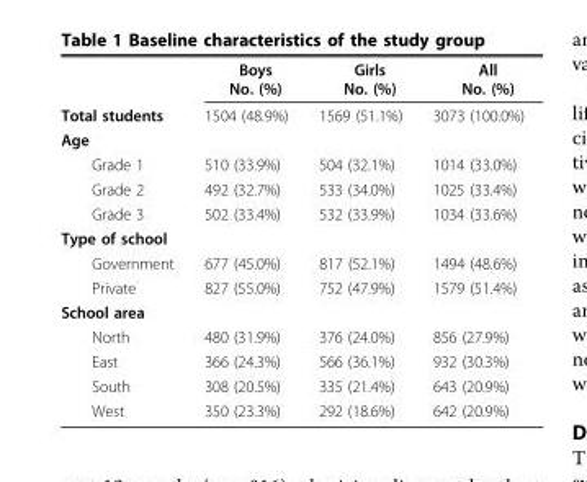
<table><thead><tr><td></td><td>Boys No. (%)</td><td>Girls No. (%)</td><td>All No. (%)</td></tr></thead><tbody><tr><td>Total students</td><td>1504 (48.9%)</td><td>1569 (51.1%)</td><td>3073 (100.0%)</td></tr><tr><td colspan="4">Age</td></tr><tr><td>Grade 1</td><td>510 (33.9%)</td><td>504 (32.1%)</td><td>1014 (33.0%)</td></tr><tr><td>Grade 2</td><td>492 (32.7%)</td><td>533 (34.0%)</td><td>1025 (33.4%)</td></tr><tr><td>Grade 3</td><td>502 (33.4%)</td><td>532 (33.9%)</td><td>1034 (33.6%)</td></tr><tr><td colspan="4">Type of school</td></tr><tr><td>Government</td><td>677 (45.0%)</td><td>817 (52.1%)</td><td>1494 (48.6%)</td></tr><tr><td>Private</td><td>827 (55.0%)</td><td>752 (47.9%)</td><td>1579 (51.4%)</td></tr><tr><td colspan="4">School area</td></tr><tr><td>North</td><td>480 (31.9%)</td><td>376 (24.0%)</td><td>856 (27.9%)</td></tr><tr><td>East</td><td>366 (24.3%)</td><td>566 (36.1%)</td><td>932 (30.3%)</td></tr><tr><td>South</td><td>308 (20.5%)</td><td>335 (21.4%)</td><td>643 (20.9%)</td></tr><tr><td>West</td><td>350 (23.3%)</td><td>292 (18.6%)</td><td>642 (20.9%)</td></tr></tbody></table>